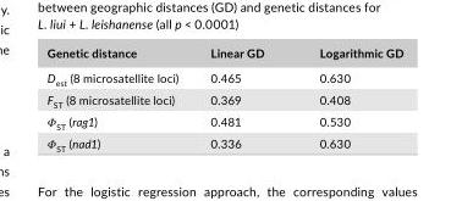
<table><thead><tr><td>Genetic distance</td><td>Linear GD</td><td>Logarithmic GD</td></tr></thead><tbody><tr><td>D<sub>est</sub> (8 microsatellite loci)</td><td>0.465</td><td>0.630</td></tr><tr><td>F<sub>ST</sub> (8 microsatellite loci)</td><td>0.369</td><td>0.408</td></tr><tr><td>Φ<sub>ST</sub> (rag1)</td><td>0.481</td><td>0.530</td></tr><tr><td>Φ<sub>ST</sub> (nad1)</td><td>0.336</td><td>0.630</td></tr></tbody></table>